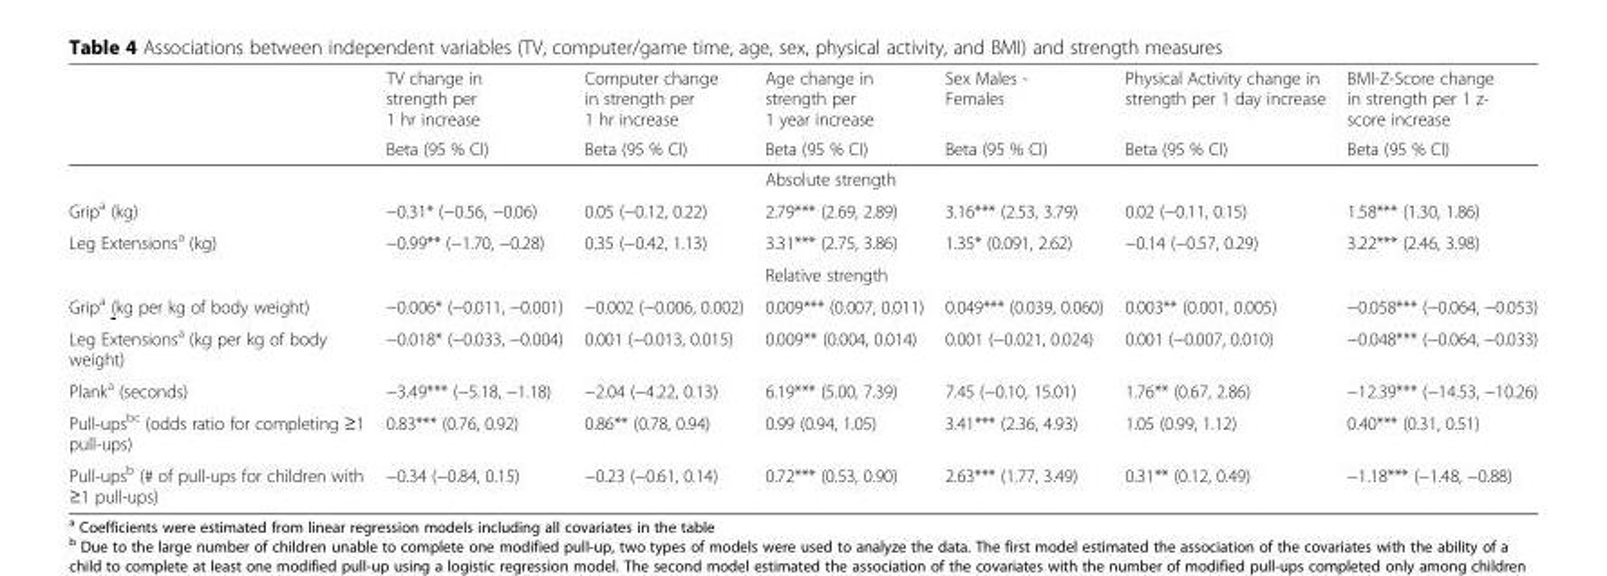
<table><thead><tr><td rowspan="2"></td><td rowspan="2">TV change in strength per 1 hr increase Beta (95 % CI)</td><td rowspan="2">Computer change in strength per 1 hr increase Beta (95 % CI)</td><td rowspan="2">Age change in strength per 1 year increase Beta (95 % CI)</td><td rowspan="2">Sex Males - Females Beta (95 % CI)</td><td rowspan="2">Physical Activity change in strength per 1 day increase Beta (95 % CI)</td><td rowspan="2">BMI-Z-Score change in strength per 1 z- score increase Beta (95 % CI)</td></tr><tr></tr></thead><tbody><tr><td></td><td></td><td></td><td colspan="4">Absolute strength</td></tr><tr><td>Grip<sup>a</sup> (kg)</td><td>−0.31* (−0.56, −0.06)</td><td>0.05 (−0.12, 0.22)</td><td>2.79*** (2.69, 2.89)</td><td>3.16*** (2.53, 3.79)</td><td>0.02 (−0.11, 0.15)</td><td>1.58*** (1.30, 1.86)</td></tr><tr><td rowspan="2">Leg Extensions<sup>a</sup> (kg)</td><td>−0.99** (−1.70, −0.28)</td><td>0.35 (−0.42, 1.13)</td><td>3.31*** (2.75, 3.86)</td><td>1.35* (0.091, 2.62)</td><td>−0.14 (−0.57, 0.29)</td><td>3.22*** (2.46, 3.98)</td></tr><tr><td></td><td></td><td colspan="4">Relative strength</td></tr><tr><td>Grip<sup>a</sup> (kg per kg of body weight)</td><td>−0.006* (−0.011, −0.001)</td><td>−0.002 (−0.006, 0.002)</td><td>0.009*** (0.007, 0.011)</td><td>0.049*** (0.039, 0.060)</td><td>0.003** (0.001, 0.005)</td><td>−0.058*** (−0.064, −0.053)</td></tr><tr><td>Leg Extensions<sup>a</sup> (kg per kg of body weight)</td><td>−0.018* (−0.033, −0.004)</td><td>0.001 (−0.013, 0.015)</td><td>0.009** (0.004, 0.014)</td><td>0.001 (−0.021, 0.024)</td><td>0.001 (−0.007, 0.010)</td><td>−0.048*** (−0.064, −0.033)</td></tr><tr><td>Plank<sup>a</sup> (seconds)</td><td>−3.49*** (−5.18, −1.18)</td><td>−2.04 (−4.22, 0.13)</td><td>6.19*** (5.00, 7.39)</td><td>7.45 (−0.10, 15.01)</td><td>1.76** (0.67, 2.86)</td><td>−12.39*** (−14.53, −10.26)</td></tr><tr><td>Pull-ups<sup>bc</sup> (odds ratio for completing ≥1 pull-ups)</td><td>0.83*** (0.76, 0.92)</td><td>0.86** (0.78, 0.94)</td><td>0.99 (0.94, 1.05)</td><td>3.41*** (2.36, 4.93)</td><td>1.05 (0.99, 1.12)</td><td>0.40*** (0.31, 0.51)</td></tr><tr><td>Pull-ups<sup>b</sup> (# of pull-ups for children with ≥1 pull-ups)</td><td>−0.34 (−0.84, 0.15)</td><td>−0.23 (−0.61, 0.14)</td><td>0.72*** (0.53, 0.90)</td><td>2.63*** (1.77, 3.49)</td><td>0.31** (0.12, 0.49)</td><td>−1.18*** (−1.48, −0.88)</td></tr></tbody></table>